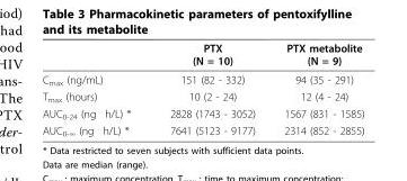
<table><thead><tr><td></td><td>PTX (N = 10)</td><td>PTX metabolite (N = 9)</td></tr></thead><tbody><tr><td>C<sub>max</sub> (ng/mL)</td><td>151 (82 - 332)</td><td>94 (35 - 291)</td></tr><tr><td>T<sub>max</sub> (hours)</td><td>10 (2 - 24)</td><td>12 (4 - 24)</td></tr><tr><td>AUC<sub>0-24</sub> (ng <sup>.</sup> h/L) *</td><td>2828 (1743 - 3052)</td><td>1567 (831 - 1585)</td></tr><tr><td>AUC<sub>0-∞</sub> (ng <sup>.</sup> h/L) *</td><td>7641 (5123 - 9177)</td><td>2314 (852 - 2855)</td></tr></tbody></table>